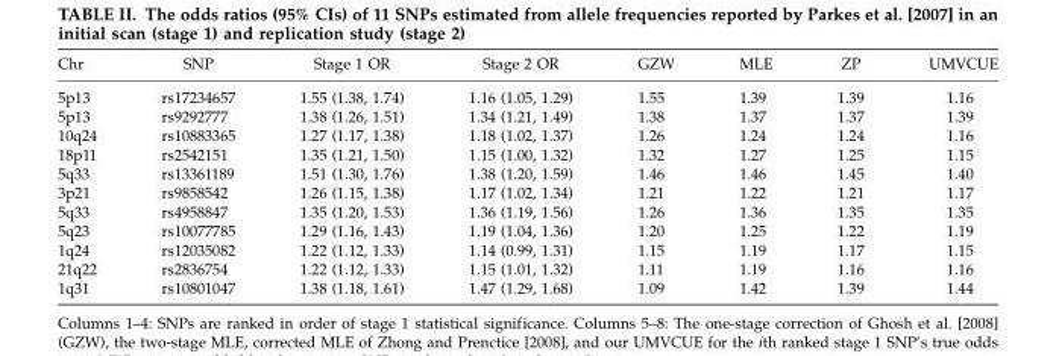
<table><thead><tr><td>Chr</td><td>SNP</td><td>Stage 1 OR</td><td>Stage 2 OR</td><td>GZW</td><td>MLE</td><td>ZP</td><td>UMVCUE</td></tr></thead><tbody><tr><td>5p13</td><td>rs17234657</td><td>1.55 (1.38, 1.74)</td><td>1.16 (1.05, 1.29)</td><td>1.55</td><td>1.39</td><td>1.39</td><td>1.16</td></tr><tr><td>5p13</td><td>rs9292777</td><td>1.38 (1.26, 1.51)</td><td>1.34 (1.21, 1.49)</td><td>1.38</td><td>1.37</td><td>1.37</td><td>1.39</td></tr><tr><td>10q24</td><td>rs10883365</td><td>1.27 (1.17, 1.38)</td><td>1.18 (1.02, 1.37)</td><td>1.26</td><td>1.24</td><td>1.24</td><td>1.16</td></tr><tr><td>18p11</td><td>rs2542151</td><td>1.35 (1.21, 1.50)</td><td>1.15 (1.00, 1.32)</td><td>1.32</td><td>1.27</td><td>1.25</td><td>1.15</td></tr><tr><td>5q33</td><td>rs13361189</td><td>1.51 (1.30, 1.76)</td><td>1.38 (1.20, 1.59)</td><td>1.46</td><td>1.46</td><td>1.45</td><td>1.40</td></tr><tr><td>3p21</td><td>rs9858542</td><td>1.26 (1.15, 1.38)</td><td>1.17 (1.02, 1.34)</td><td>1.21</td><td>1.22</td><td>1.21</td><td>1.17</td></tr><tr><td>5q33</td><td>rs4958847</td><td>1.35 (1.20, 1.53)</td><td>1.36 (1.19, 1.56)</td><td>1.26</td><td>1.36</td><td>1.35</td><td>1.35</td></tr><tr><td>5q23</td><td>rs10077785</td><td>1.29 (1.16, 1.43)</td><td>1.19 (1.04, 1.36)</td><td>1.20</td><td>1.25</td><td>1.22</td><td>1.19</td></tr><tr><td>1q24</td><td>rs12035082</td><td>1.22 (1.12, 1.33)</td><td>1.14 (0.99, 1.31)</td><td>1.15</td><td>1.19</td><td>1.17</td><td>1.15</td></tr><tr><td>21q22</td><td>rs2836754</td><td>1.22 (1.12, 1.33)</td><td>1.15 (1.01, 1.32)</td><td>1.11</td><td>1.19</td><td>1.16</td><td>1.16</td></tr><tr><td>1q31</td><td>rs10801047</td><td>1.38 (1.18, 1.61)</td><td>1.47 (1.29, 1.68)</td><td>1.09</td><td>1.42</td><td>1.39</td><td>1.44</td></tr></tbody></table>